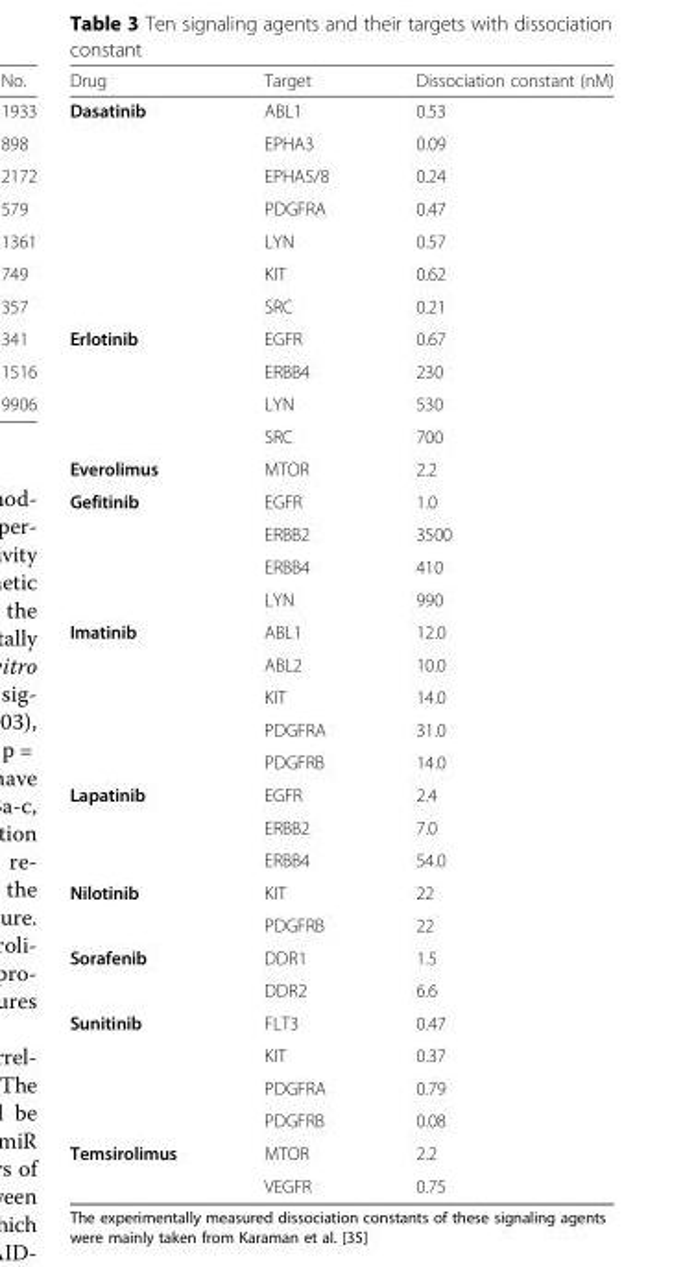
<table><thead><tr><td>Drug</td><td>Target</td><td>Dissociation constant (nM)</td></tr></thead><tbody><tr><td rowspan="7">Dasatinib</td><td>ABL1</td><td>0.53</td></tr><tr><td>EPHA3</td><td>0.09</td></tr><tr><td>EPHA5/8</td><td>0.24</td></tr><tr><td>PDGFRA</td><td>0.47</td></tr><tr><td>LYN</td><td>0.57</td></tr><tr><td>KIT</td><td>0.62</td></tr><tr><td>SRC</td><td>0.21</td></tr><tr><td rowspan="4">Erlotinib</td><td>EGFR</td><td>0.67</td></tr><tr><td>ERBB4</td><td>230</td></tr><tr><td>LYN</td><td>530</td></tr><tr><td>SRC</td><td>700</td></tr><tr><td>Everolimus</td><td>MTOR</td><td>2.2</td></tr><tr><td rowspan="4">Gefitinib</td><td>EGFR</td><td>1.0</td></tr><tr><td>ERBB2</td><td>3500</td></tr><tr><td>ERBB4</td><td>410</td></tr><tr><td>LYN</td><td>990</td></tr><tr><td rowspan="5">Imatinib</td><td>ABL1</td><td>12.0</td></tr><tr><td>ABL2</td><td>10.0</td></tr><tr><td>KIT</td><td>14.0</td></tr><tr><td>PDGFRA</td><td>31.0</td></tr><tr><td>PDGFRB</td><td>14.0</td></tr><tr><td rowspan="3">Lapatinib</td><td>EGFR</td><td>2.4</td></tr><tr><td>ERBB2</td><td>7.0</td></tr><tr><td>ERBB4</td><td>54.0</td></tr><tr><td rowspan="2">Nilotinib</td><td>KIT</td><td>22</td></tr><tr><td>PDGFRB</td><td>22</td></tr><tr><td rowspan="2">Sorafenib</td><td>DDR1</td><td>1.5</td></tr><tr><td>DDR2</td><td>6.6</td></tr><tr><td rowspan="4">Sunitinib</td><td>FLT3</td><td>0.47</td></tr><tr><td>KIT</td><td>0.37</td></tr><tr><td>PDGFRA</td><td>0.79</td></tr><tr><td>PDGFRB</td><td>0.08</td></tr><tr><td rowspan="2">Temsirolimus</td><td>MTOR</td><td>2.2</td></tr><tr><td>VEGFR</td><td>0.75</td></tr></tbody></table>